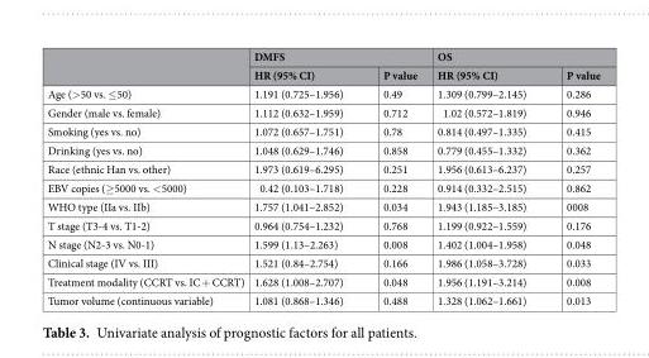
<table><thead><tr><td rowspan="2"></td><td colspan="2">DMFS</td><td colspan="2">OS</td></tr><tr><td>HR (95% CI)</td><td>P value</td><td>HR (95% CI)</td><td>P value</td></tr></thead><tbody><tr><td>Age (&gt;50 vs. ≤50)</td><td>1.191 (0.725–1.956)</td><td>0.49</td><td>1.309 (0.799–2.145)</td><td>0.286</td></tr><tr><td>Gender (male vs. female)</td><td>1.112 (0.632–1.959)</td><td>0.712</td><td>1.02 (0.572–1.819)</td><td>0.946</td></tr><tr><td>Smoking (yes vs. no)</td><td>1.072 (0.657–1.751)</td><td>0.78</td><td>0.814 (0.497–1.335)</td><td>0.415</td></tr><tr><td>Drinking (yes vs. no)</td><td>1.048 (0.629–1.746)</td><td>0.858</td><td>0.779 (0.455–1.332)</td><td>0.362</td></tr><tr><td>Race (ethnic Han vs. other)</td><td>1.973 (0.619–6.295)</td><td>0.251</td><td>1.956 (0.613–6.237)</td><td>0.257</td></tr><tr><td>EBV copies (≥5000 vs. &lt;5000)</td><td>0.42 (0.103–1.718)</td><td>0.228</td><td>0.914 (0.332–2.515)</td><td>0.862</td></tr><tr><td>WHO type (IIa vs. IIb)</td><td>1.757 (1.041–2.852)</td><td>0.034</td><td>1.943 (1.185–3.185)</td><td>0008</td></tr><tr><td>T stage (T3-4 vs. T1-2)</td><td>0.964 (0.754–1.232)</td><td>0.768</td><td>1.199 (0.922–1.559)</td><td>0.176</td></tr><tr><td>N stage (N2-3 vs. N0-1)</td><td>1.599 (1.13–2.263)</td><td>0.008</td><td>1.402 (1.004–1.958)</td><td>0.048</td></tr><tr><td>Clinical stage (IV vs. III)</td><td>1.521 (0.84–2.754)</td><td>0.166</td><td>1.986 (1.058–3.728)</td><td>0.033</td></tr><tr><td>Treatment modality (CCRT vs. IC + CCRT)</td><td>1.628 (1.008–2.707)</td><td>0.048</td><td>1.956 (1.191–3.214)</td><td>0.008</td></tr><tr><td>Tumor volume (continuous variable)</td><td>1.081 (0.868–1.346)</td><td>0.488</td><td>1.328 (1.062–1.661)</td><td>0.013</td></tr></tbody></table>